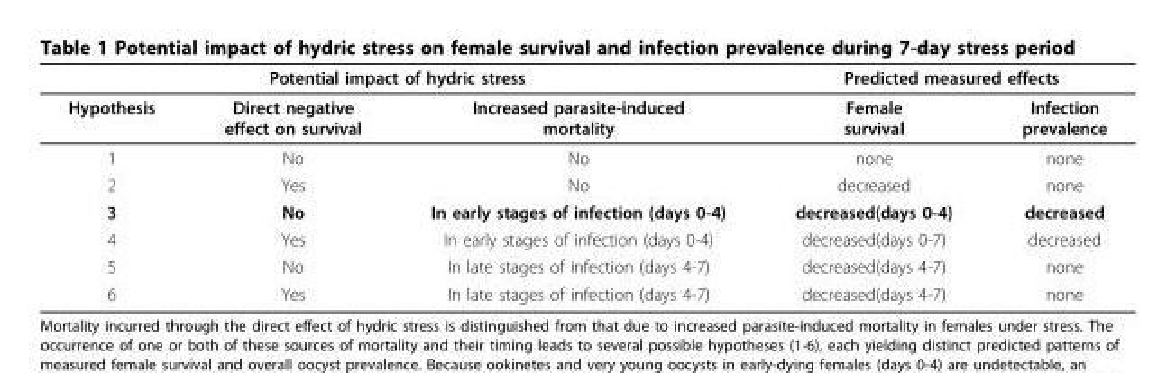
<table><thead><tr><td colspan="3">Potential impact of hydric stress</td><td colspan="2">Predicted measured effects</td></tr><tr><td>Hypothesis</td><td>Direct negative effect on survival</td><td>Increased parasite-induced mortality</td><td>Female survival</td><td>Infection prevalence</td></tr></thead><tbody><tr><td>1</td><td>No</td><td>No</td><td>none</td><td>none</td></tr><tr><td>2</td><td>Yes</td><td>No</td><td>decreased</td><td>none</td></tr><tr><td>3</td><td>No</td><td>In early stages of infection (days 0-4)</td><td>decreased(days 0-4)</td><td>decreased</td></tr><tr><td>4</td><td>Yes</td><td>In early stages of infection (days 0-4)</td><td>decreased(days 0-7)</td><td>decreased</td></tr><tr><td>5</td><td>No</td><td>In late stages of infection (days 4-7)</td><td>decreased(days 4-7)</td><td>none</td></tr><tr><td>6</td><td>Yes</td><td>In late stages of infection (days 4-7)</td><td>decreased(days 4-7)</td><td>none</td></tr></tbody></table>